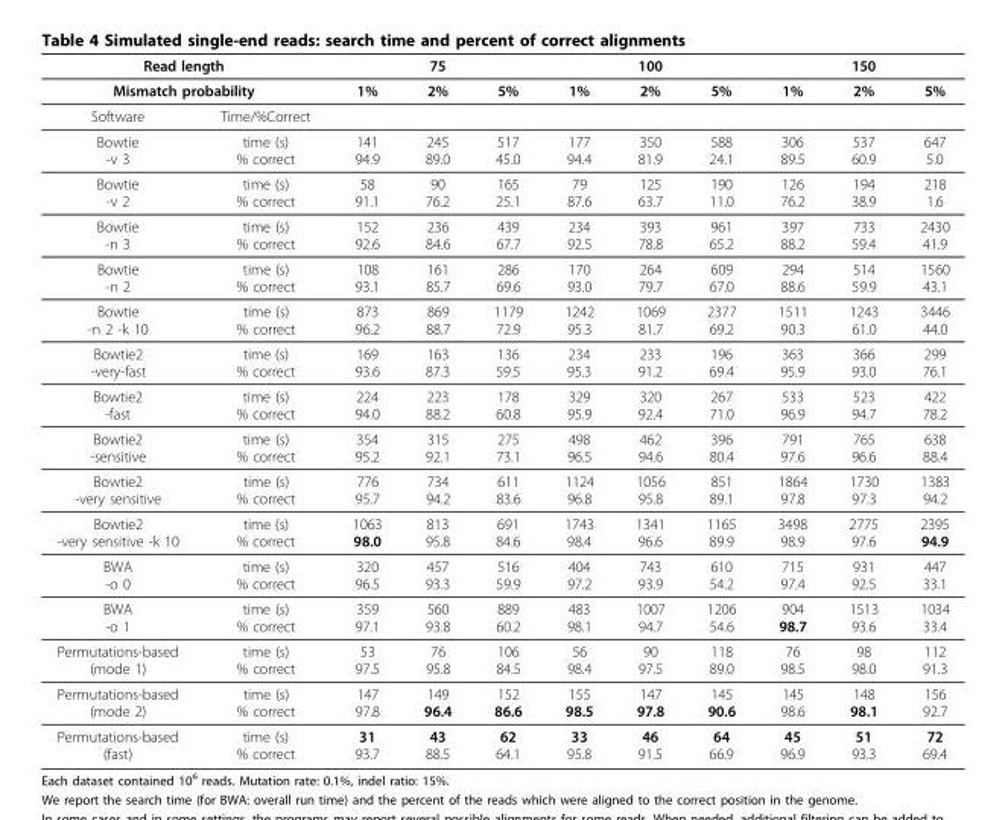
<table><thead><tr><td rowspan="2" colspan="2">Read length Mismatch probability</td><td colspan="3">75</td><td colspan="3">100</td><td colspan="3">150</td></tr><tr><td rowspan="2">1%</td><td rowspan="2">2%</td><td rowspan="2">5%</td><td rowspan="2">1%</td><td rowspan="2">2%</td><td rowspan="2">5%</td><td rowspan="2">1%</td><td rowspan="2">2%</td><td rowspan="2">5%</td></tr><tr><td>Software</td><td>Time/%Correct</td></tr></thead><tbody><tr><td>Bowtie -v 3</td><td>time (s) % correct</td><td>141 94.9</td><td>245 89.0</td><td>517 45.0</td><td>177 94.4</td><td>350 81.9</td><td>588 24.1</td><td>306 89.5</td><td>537 60.9</td><td>647 5.0</td></tr><tr><td>Bowtie -v 2</td><td>time (s) % correct</td><td>58 91.1</td><td>90 76.2</td><td>165 25.1</td><td>79 87.6</td><td>125 63.7</td><td>190 11.0</td><td>126 76.2</td><td>194 38.9</td><td>218 1.6</td></tr><tr><td>Bowtie -n 3</td><td>time (s) % correct</td><td>152 92.6</td><td>236 84.6</td><td>439 67.7</td><td>234 92.5</td><td>393 78.8</td><td>961 65.2</td><td>397 88.2</td><td>733 59.4</td><td>2430 41.9</td></tr><tr><td>Bowtie -n 2</td><td>time (s) % correct</td><td>108 93.1</td><td>161 85.7</td><td>286 69.6</td><td>170 93.0</td><td>264 79.7</td><td>609 67.0</td><td>294 88.6</td><td>514 59.9</td><td>1560 43.1</td></tr><tr><td>Bowtie -n 2 -k 10</td><td>time (s) % correct</td><td>873 96.2</td><td>869 88.7</td><td>1179 72.9</td><td>1242 95.3</td><td>1069 81.7</td><td>2377 69.2</td><td>1511 90.3</td><td>1243 61.0</td><td>3446 44.0</td></tr><tr><td>Bowtie2 -very-fast</td><td>time (s) % correct</td><td>169 93.6</td><td>163 87.3</td><td>136 59.5</td><td>234 95.3</td><td>233 91.2</td><td>196 69.4</td><td>363 95.9</td><td>366 93.0</td><td>299 76.1</td></tr><tr><td>Bowtie2 -fast</td><td>time (s) % correct</td><td>224 94.0</td><td>223 88.2</td><td>178 60.8</td><td>329 95.9</td><td>320 92.4</td><td>267 71.0</td><td>533 96.9</td><td>523 94.7</td><td>422 78.2</td></tr><tr><td>Bowtie2 -sensitive</td><td>time (s) % correct</td><td>354 95.2</td><td>315 92.1</td><td>275 73.1</td><td>498 96.5</td><td>462 94.6</td><td>396 80.4</td><td>791 97.6</td><td>765 96.6</td><td>638 88.4</td></tr><tr><td>Bowtie2 -very sensitive</td><td>time (s) % correct</td><td>776 95.7</td><td>734 94.2</td><td>611 83.6</td><td>1124 96.8</td><td>1056 95.8</td><td>851 89.1</td><td>1864 97.8</td><td>1730 97.3</td><td>1383 94.2</td></tr><tr><td>Bowtie2 -very sensitive -k 10</td><td>time (s) % correct</td><td>1063 98.0</td><td>813 95.8</td><td>691 84.6</td><td>1743 98.4</td><td>1341 96.6</td><td>1165 89.9</td><td>3498 98.9</td><td>2775 97.6</td><td>2395 94.9</td></tr><tr><td>BWA -o 0</td><td>time (s) % correct</td><td>320 96.5</td><td>457 93.3</td><td>516 59.9</td><td>404 97.2</td><td>743 93.9</td><td>610 54.2</td><td>715 97.4</td><td>931 92.5</td><td>447 33.1</td></tr><tr><td>BWA -o 1</td><td>time (s) % correct</td><td>359 97.1</td><td>560 93.8</td><td>889 60.2</td><td>483 98.1</td><td>1007 94.7</td><td>1206 54.6</td><td>904 98.7</td><td>1513 93.6</td><td>1034 33.4</td></tr><tr><td>Permutations-based (mode 1)</td><td>time (s) % correct</td><td>53 97.5</td><td>76 95.8</td><td>106 84.5</td><td>56 98.4</td><td>90 97.5</td><td>118 89.0</td><td>76 98.5</td><td>98 98.0</td><td>112 91.3</td></tr><tr><td>Permutations-based (mode 2)</td><td>time (s) % correct</td><td>147 97.8</td><td>149 96.4</td><td>152 86.6</td><td>155 98.5</td><td>147 97.8</td><td>145 90.6</td><td>145 98.6</td><td>148 98.1</td><td>156 92.7</td></tr><tr><td>Permutations-based (fast)</td><td>time (s) % correct</td><td>31 93.7</td><td>43 88.5</td><td>62 64.1</td><td>33 95.8</td><td>46 91.5</td><td>64 66.9</td><td>45 96.9</td><td>51 93.3</td><td>72 69.4</td></tr></tbody></table>